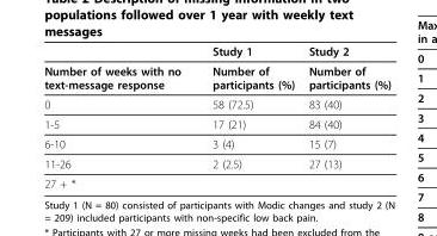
<table><thead><tr><td></td><td>Study 1</td><td>Study 2</td></tr></thead><tbody><tr><td>Number of weeks with no text-message response</td><td>Number of participants (%)</td><td>Number of participants (%)</td></tr><tr><td>0</td><td>58 (72.5)</td><td>83 (40)</td></tr><tr><td>1-5</td><td>17 (21)</td><td>84 (40)</td></tr><tr><td>6-10</td><td>3 (4)</td><td>15 (7)</td></tr><tr><td>11-26</td><td>2 (2.5)</td><td>27 (13)</td></tr><tr><td>27 + *</td><td></td><td></td></tr></tbody></table>